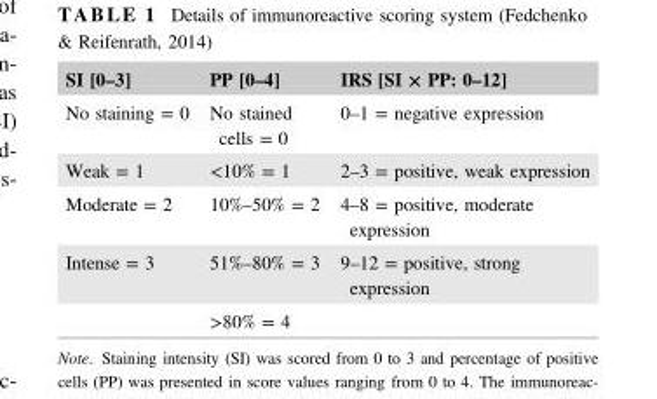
<table><thead><tr><td>SI [0–3]</td><td>PP [0–4]</td><td>IRS [SI × PP: 0–12]</td></tr></thead><tbody><tr><td>No staining = 0</td><td>No stained cells = 0</td><td>0–1 = negative expression</td></tr><tr><td>Weak = 1</td><td>&lt;10% = 1</td><td>2–3 = positive, weak expression</td></tr><tr><td>Moderate = 2</td><td>10%–50% = 2</td><td>4–8 = positive, moderate expression</td></tr><tr><td rowspan="2">Intense = 3</td><td>51%–80% = 3</td><td>9–12 = positive, strong expression</td></tr><tr><td>&gt;80% = 4</td><td></td></tr></tbody></table>